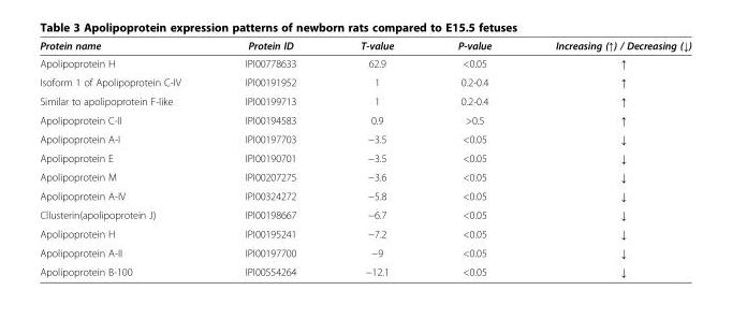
<table><thead><tr><td>Protein name</td><td>Protein ID</td><td>T-value</td><td>P-value</td><td>Increasing (↑) / Decreasing (↓)</td></tr></thead><tbody><tr><td>Apolipoprotein H</td><td>IPI00778633</td><td>62.9</td><td>&lt;0.05</td><td>↑</td></tr><tr><td>Isoform 1 of Apolipoprotein C-IV</td><td>IPI00191952</td><td>1</td><td>0.2-0.4</td><td>↑</td></tr><tr><td>Similar to apolipoprotein F-like</td><td>IPI00199713</td><td>1</td><td>0.2-0.4</td><td>↑</td></tr><tr><td>Apolipoprotein C-II</td><td>IPI00194583</td><td>0.9</td><td>&gt;0.5</td><td>↑</td></tr><tr><td>Apolipoprotein A-I</td><td>IPI00197703</td><td>−3.5</td><td>&lt;0.05</td><td>↓</td></tr><tr><td>Apolipoprotein E</td><td>IPI00190701</td><td>−3.5</td><td>&lt;0.05</td><td>↓</td></tr><tr><td>Apolipoprotein M</td><td>IPI00207275</td><td>−3.6</td><td>&lt;0.05</td><td>↓</td></tr><tr><td>Apolipoprotein A-IV</td><td>IPI00324272</td><td>−5.8</td><td>&lt;0.05</td><td>↓</td></tr><tr><td>Cllusterin(apolipoprotein J)</td><td>IPI00198667</td><td>−6.7</td><td>&lt;0.05</td><td>↓</td></tr><tr><td>Apolipoprotein H</td><td>IPI00195241</td><td>−7.2</td><td>&lt;0.05</td><td>↓</td></tr><tr><td>Apolipoprotein A-II</td><td>IPI00197700</td><td>−9</td><td>&lt;0.05</td><td>↓</td></tr><tr><td>Apolipoprotein B-100</td><td>IPI00554264</td><td>−12.1</td><td>&lt;0.05</td><td>↓</td></tr></tbody></table>